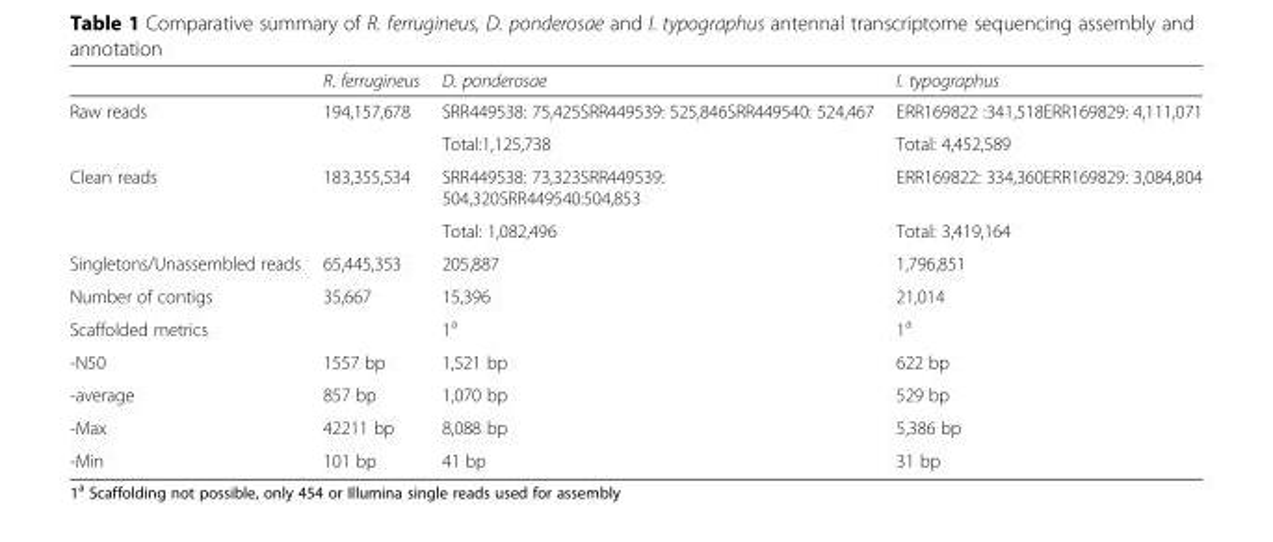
<table><thead><tr><td></td><td>R. ferrugineus</td><td>D. ponderosae</td><td>I. typographus</td></tr></thead><tbody><tr><td rowspan="2">Raw reads</td><td rowspan="2">194,157,678</td><td>SRR449538: 75,425SRR449539: 525,846SRR449540: 524,467</td><td>ERR169822 :341,518ERR169829: 4,111,071</td></tr><tr><td>Total:1,125,738</td><td>Total: 4,452,589</td></tr><tr><td rowspan="2">Clean reads</td><td rowspan="2">183,355,534</td><td>SRR449538: 73,323SRR449539: 504,320SRR449540:504,853</td><td>ERR169822: 334,360ERR169829: 3,084,804</td></tr><tr><td>Total: 1,082,496</td><td>Total: 3,419,164</td></tr><tr><td>Singletons/Unassembled reads</td><td>65,445,353</td><td>205,887</td><td>1,796,851</td></tr><tr><td>Number of contigs</td><td>35,667</td><td>15,396</td><td>21,014</td></tr><tr><td>Scaffolded metrics</td><td></td><td>1<sup>a</sup></td><td>1<sup>a</sup></td></tr><tr><td>-N50</td><td>1557 bp</td><td>1,521 bp</td><td>622 bp</td></tr><tr><td>-average</td><td>857 bp</td><td>1,070 bp</td><td>529 bp</td></tr><tr><td>-Max</td><td>42211 bp</td><td>8,088 bp</td><td>5,386 bp</td></tr><tr><td>-Min</td><td>101 bp</td><td>41 bp</td><td>31 bp</td></tr></tbody></table>